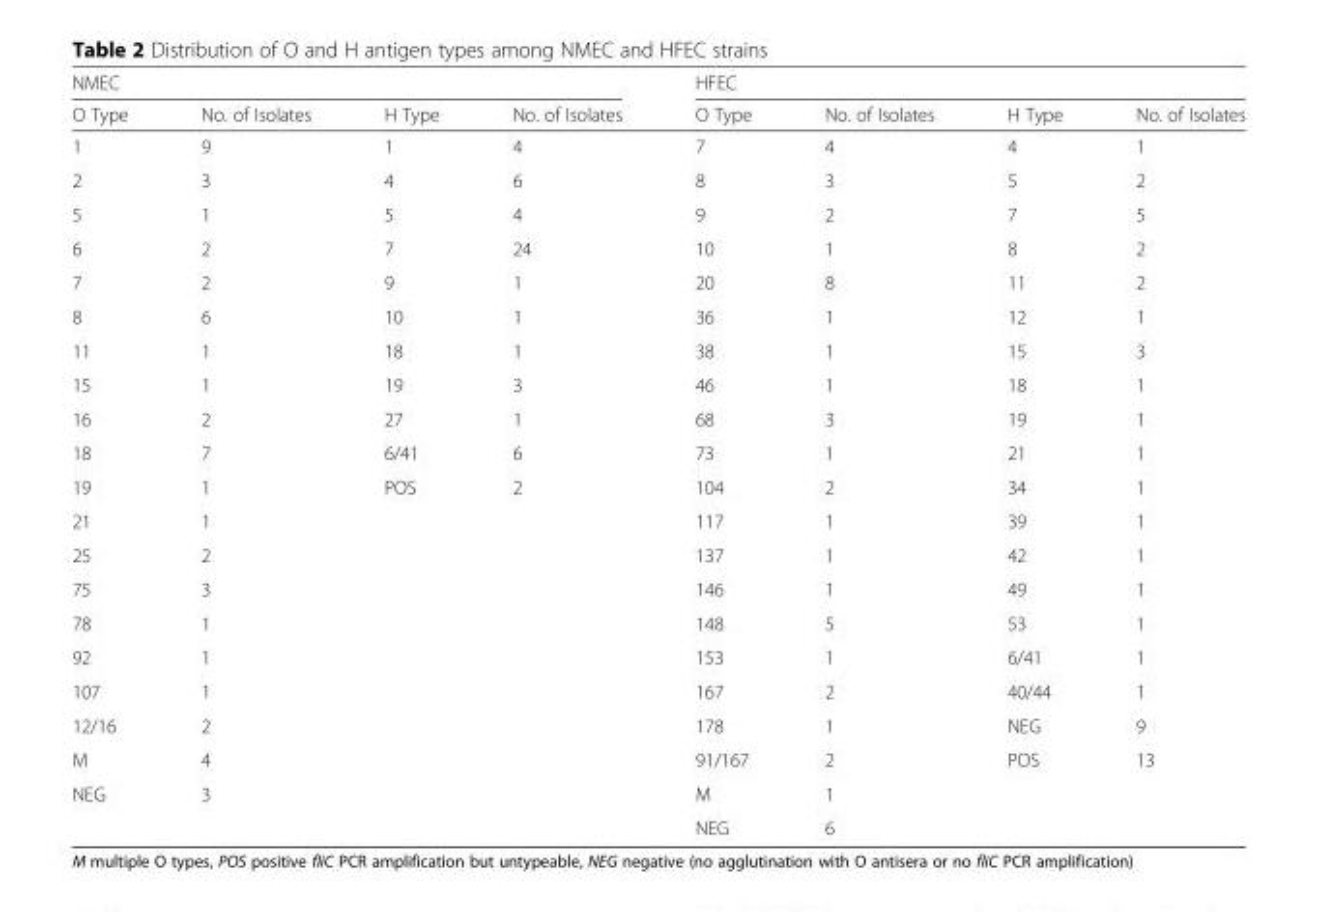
<table><thead><tr><td colspan="4">NMEC</td><td colspan="4">HFEC</td></tr><tr><td>O Type</td><td>No. of Isolates</td><td>H Type</td><td>No. of Isolates</td><td>O Type</td><td>No. of Isolates</td><td>H Type</td><td>No. of Isolates</td></tr></thead><tbody><tr><td>1</td><td>9</td><td>1</td><td>4</td><td>7</td><td>4</td><td>4</td><td>1</td></tr><tr><td>2</td><td>3</td><td>4</td><td>6</td><td>8</td><td>3</td><td>5</td><td>2</td></tr><tr><td>5</td><td>1</td><td>5</td><td>4</td><td>9</td><td>2</td><td>7</td><td>5</td></tr><tr><td>6</td><td>2</td><td>7</td><td>24</td><td>10</td><td>1</td><td>8</td><td>2</td></tr><tr><td>7</td><td>2</td><td>9</td><td>1</td><td>20</td><td>8</td><td>11</td><td>2</td></tr><tr><td>8</td><td>6</td><td>10</td><td>1</td><td>36</td><td>1</td><td>12</td><td>1</td></tr><tr><td>11</td><td>1</td><td>18</td><td>1</td><td>38</td><td>1</td><td>15</td><td>3</td></tr><tr><td>15</td><td>1</td><td>19</td><td>3</td><td>46</td><td>1</td><td>18</td><td>1</td></tr><tr><td>16</td><td>2</td><td>27</td><td>1</td><td>68</td><td>3</td><td>19</td><td>1</td></tr><tr><td>18</td><td>7</td><td>6/41</td><td>6</td><td>73</td><td>1</td><td>21</td><td>1</td></tr><tr><td>19</td><td>1</td><td>POS</td><td>2</td><td>104</td><td>2</td><td>34</td><td>1</td></tr><tr><td>21</td><td>1</td><td></td><td></td><td>117</td><td>1</td><td>39</td><td>1</td></tr><tr><td>25</td><td>2</td><td></td><td></td><td>137</td><td>1</td><td>42</td><td>1</td></tr><tr><td>75</td><td>3</td><td></td><td></td><td>146</td><td>1</td><td>49</td><td>1</td></tr><tr><td>78</td><td>1</td><td></td><td></td><td>148</td><td>5</td><td>53</td><td>1</td></tr><tr><td>92</td><td>1</td><td></td><td></td><td>153</td><td>1</td><td>6/41</td><td>1</td></tr><tr><td>107</td><td>1</td><td></td><td></td><td>167</td><td>2</td><td>40/44</td><td>1</td></tr><tr><td>12/16</td><td>2</td><td></td><td></td><td>178</td><td>1</td><td>NEG</td><td>9</td></tr><tr><td>M</td><td>4</td><td></td><td></td><td>91/167</td><td>2</td><td>POS</td><td>13</td></tr><tr><td rowspan="2">NEG</td><td>3</td><td></td><td></td><td>M</td><td>1</td><td></td><td></td></tr><tr><td></td><td></td><td></td><td>NEG</td><td>6</td><td></td><td></td></tr></tbody></table>